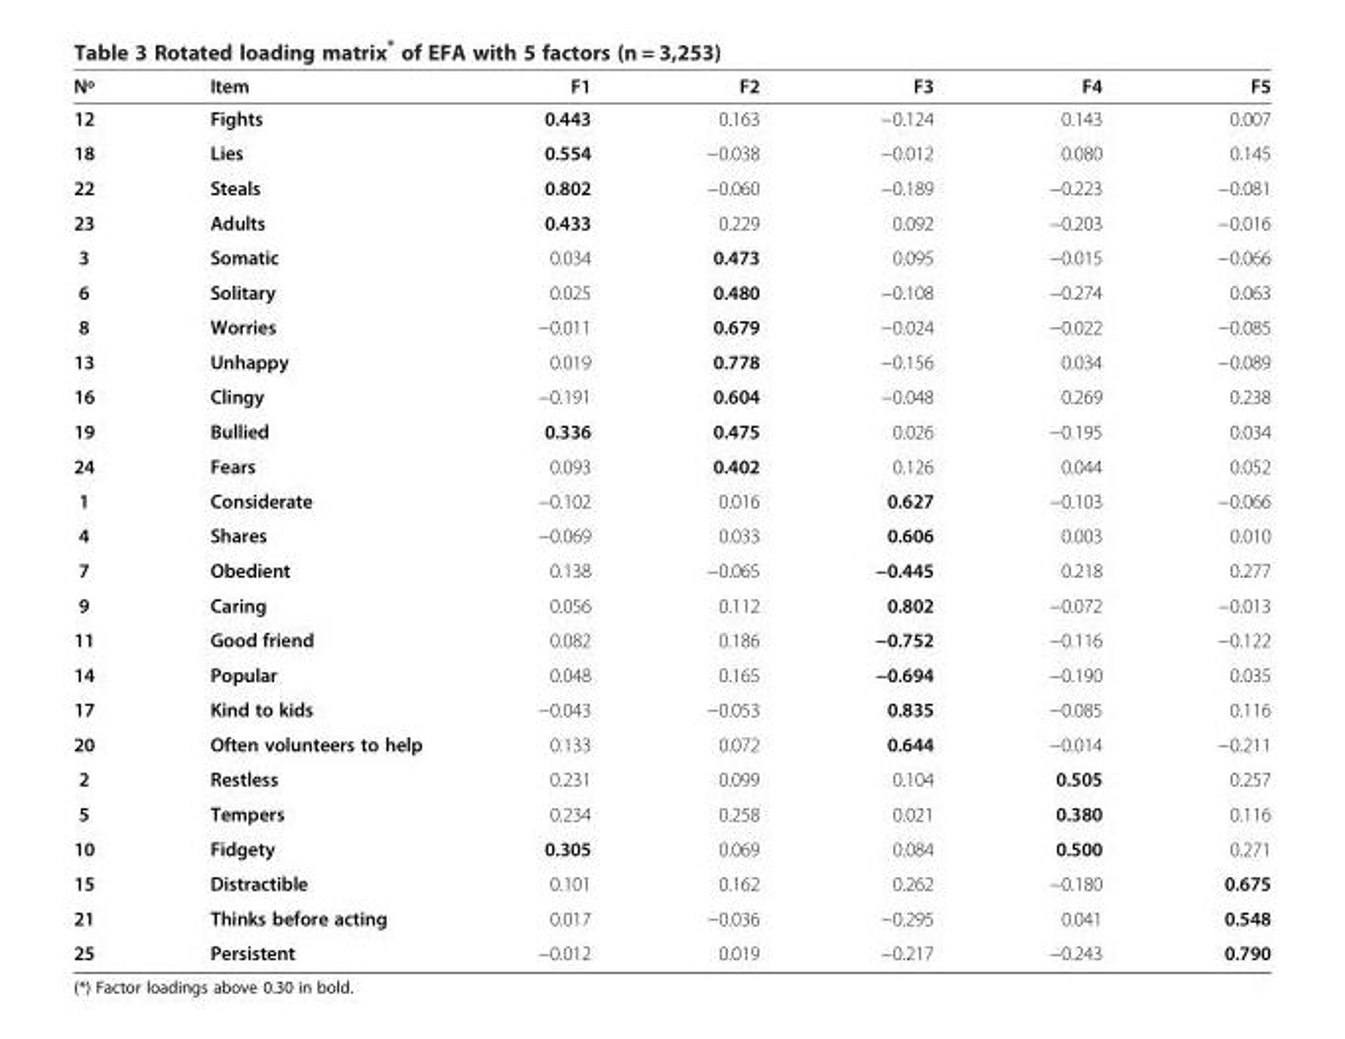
<table><thead><tr><td>Nº</td><td>Item</td><td>F1</td><td>F2</td><td>F3</td><td>F4</td><td>F5</td></tr></thead><tbody><tr><td>12</td><td>Fights</td><td>0.443</td><td>0.163</td><td>−0.124</td><td>0.143</td><td>0.007</td></tr><tr><td>18</td><td>Lies</td><td>0.554</td><td>−0.038</td><td>−0.012</td><td>0.080</td><td>0.145</td></tr><tr><td>22</td><td>Steals</td><td>0.802</td><td>−0.060</td><td>−0.189</td><td>−0.223</td><td>−0.081</td></tr><tr><td>23</td><td>Adults</td><td>0.433</td><td>0.229</td><td>0.092</td><td>−0.203</td><td>−0.016</td></tr><tr><td>3</td><td>Somatic</td><td>0.034</td><td>0.473</td><td>0.095</td><td>−0.015</td><td>−0.066</td></tr><tr><td>6</td><td>Solitary</td><td>0.025</td><td>0.480</td><td>−0.108</td><td>−0.274</td><td>0.063</td></tr><tr><td>8</td><td>Worries</td><td>−0.011</td><td>0.679</td><td>−0.024</td><td>−0.022</td><td>−0.085</td></tr><tr><td>13</td><td>Unhappy</td><td>0.019</td><td>0.778</td><td>−0.156</td><td>0.034</td><td>−0.089</td></tr><tr><td>16</td><td>Clingy</td><td>−0.191</td><td>0.604</td><td>−0.048</td><td>0.269</td><td>0.238</td></tr><tr><td>19</td><td>Bullied</td><td>0.336</td><td>0.475</td><td>0.026</td><td>−0.195</td><td>0.034</td></tr><tr><td>24</td><td>Fears</td><td>0.093</td><td>0.402</td><td>0.126</td><td>0.044</td><td>0.052</td></tr><tr><td>1</td><td>Considerate</td><td>−0.102</td><td>0.016</td><td>0.627</td><td>−0.103</td><td>−0.066</td></tr><tr><td>4</td><td>Shares</td><td>−0.069</td><td>0.033</td><td>0.606</td><td>0.003</td><td>0.010</td></tr><tr><td>7</td><td>Obedient</td><td>0.138</td><td>−0.065</td><td>−0.445</td><td>0.218</td><td>0.277</td></tr><tr><td>9</td><td>Caring</td><td>0.056</td><td>0.112</td><td>0.802</td><td>−0.072</td><td>−0.013</td></tr><tr><td>11</td><td>Good friend</td><td>0.082</td><td>0.186</td><td>−0.752</td><td>−0.116</td><td>−0.122</td></tr><tr><td>14</td><td>Popular</td><td>0.048</td><td>0.165</td><td>−0.694</td><td>−0.190</td><td>0.035</td></tr><tr><td>17</td><td>Kind to kids</td><td>−0.043</td><td>−0.053</td><td>0.835</td><td>−0.085</td><td>0.116</td></tr><tr><td>20</td><td>Often volunteers to help</td><td>0.133</td><td>0.072</td><td>0.644</td><td>−0.014</td><td>−0.211</td></tr><tr><td>2</td><td>Restless</td><td>0.231</td><td>0.099</td><td>0.104</td><td>0.505</td><td>0.257</td></tr><tr><td>5</td><td>Tempers</td><td>0.234</td><td>0.258</td><td>0.021</td><td>0.380</td><td>0.116</td></tr><tr><td>10</td><td>Fidgety</td><td>0.305</td><td>0.069</td><td>0.084</td><td>0.500</td><td>0.271</td></tr><tr><td>15</td><td>Distractible</td><td>0.101</td><td>0.162</td><td>0.262</td><td>−0.180</td><td>0.675</td></tr><tr><td>21</td><td>Thinks before acting</td><td>0.017</td><td>−0.036</td><td>−0.295</td><td>0.041</td><td>0.548</td></tr><tr><td>25</td><td>Persistent</td><td>−0.012</td><td>0.019</td><td>−0.217</td><td>−0.243</td><td>0.790</td></tr></tbody></table>